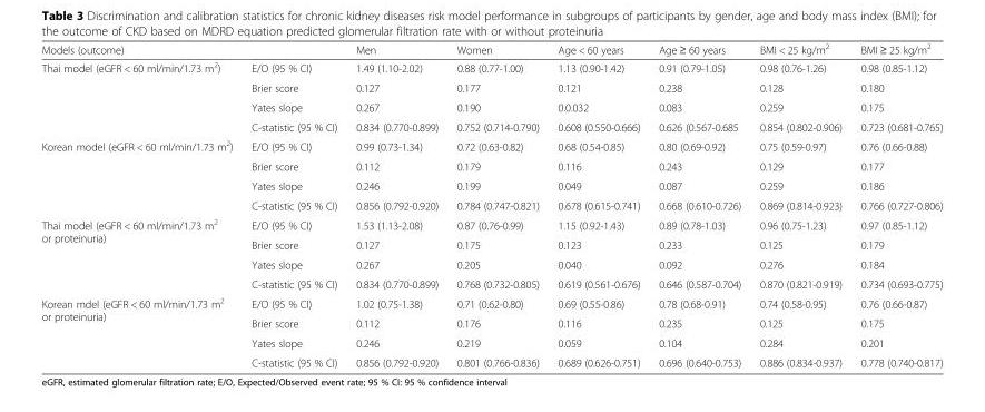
<table><thead><tr><td>Models (outcome)</td><td></td><td>Men</td><td>Women</td><td>Age &lt; 60 years</td><td>Age ≥ 60 years</td><td>BMI &lt; 25 kg/m<sup>2</sup></td><td>BMI ≥ 25 kg/m<sup>2</sup></td></tr></thead><tbody><tr><td rowspan="4">Thai model (eGFR &lt; 60 ml/min/1.73 m<sup>2</sup>)</td><td>E/O (95 % CI)</td><td>1.49 (1.10-2.02)</td><td>0.88 (0.77-1.00)</td><td>1.13 (0.90-1.42)</td><td>0.91 (0.79-1.05)</td><td>0.98 (0.76-1.26)</td><td>0.98 (0.85-1.12)</td></tr><tr><td>Brier score</td><td>0.127</td><td>0.177</td><td>0.121</td><td>0.238</td><td>0.128</td><td>0.180</td></tr><tr><td>Yates slope</td><td>0.267</td><td>0.190</td><td>0.0.032</td><td>0.083</td><td>0.259</td><td>0.175</td></tr><tr><td>C-statistic (95 % CI)</td><td>0.834 (0.770-0.899)</td><td>0.752 (0.714-0.790)</td><td>0.608 (0.550-0.666)</td><td>0.626 (0.567-0.685</td><td>0.854 (0.802-0.906)</td><td>0.723 (0.681-0.765)</td></tr><tr><td rowspan="4">Korean model (eGFR &lt; 60 ml/min/1.73 m<sup>2</sup>)</td><td>E/O (95 % CI)</td><td>0.99 (0.73-1.34)</td><td>0.72 (0.63-0.82)</td><td>0.68 (0.54-0.85)</td><td>0.80 (0.69-0.92)</td><td>0.75 (0.59-0.97)</td><td>0.76 (0.66-0.88)</td></tr><tr><td>Brier score</td><td>0.112</td><td>0.179</td><td>0.116</td><td>0.243</td><td>0.129</td><td>0.177</td></tr><tr><td>Yates slope</td><td>0.246</td><td>0.199</td><td>0.049</td><td>0.087</td><td>0.259</td><td>0.186</td></tr><tr><td>C-statistic (95 % CI)</td><td>0.856 (0.792-0.920)</td><td>0.784 (0.747-0.821)</td><td>0.678 (0.615-0.741)</td><td>0.668 (0.610-0.726)</td><td>0.869 (0.814-0.923)</td><td>0.766 (0.727-0.806)</td></tr><tr><td rowspan="4">Thai model (eGFR &lt; 60 ml/min/1.73 m<sup>2</sup> or proteinuria)</td><td>E/O (95 % CI)</td><td>1.53 (1.13-2.08)</td><td>0.87 (0.76-0.99)</td><td>1.15 (0.92-1.43)</td><td>0.89 (0.78-1.03)</td><td>0.96 (0.75-1.23)</td><td>0.97 (0.85-1.12)</td></tr><tr><td>Brier score</td><td>0.127</td><td>0.175</td><td>0.123</td><td>0.233</td><td>0.125</td><td>0.179</td></tr><tr><td>Yates slope</td><td>0.267</td><td>0.205</td><td>0.040</td><td>0.092</td><td>0.276</td><td>0.184</td></tr><tr><td>C-statistic (95 % CI)</td><td>0.834 (0.770-0.899)</td><td>0.768 (0.732-0.805)</td><td>0.619 (0.561-0.676)</td><td>0.646 (0.587-0.704)</td><td>0.870 (0.821-0.919)</td><td>0.734 (0.693-0.775)</td></tr><tr><td rowspan="4">Korean mdel (eGFR &lt; 60 ml/min/1.73 m<sup>2</sup> or proteinuria)</td><td>E/O (95 % CI)</td><td>1.02 (0.75-1.38)</td><td>0.71 (0.62-0.80)</td><td>0.69 (0.55-0.86)</td><td>0.78 (0.68-0.91)</td><td>0.74 (0.58-0.95)</td><td>0.76 (0.66-0.87)</td></tr><tr><td>Brier score</td><td>0.112</td><td>0.176</td><td>0.116</td><td>0.235</td><td>0.125</td><td>0.175</td></tr><tr><td>Yates slope</td><td>0.246</td><td>0.219</td><td>0.059</td><td>0.104</td><td>0.284</td><td>0.201</td></tr><tr><td>C-statistic (95 % CI)</td><td>0.856 (0.792-0.920)</td><td>0.801 (0.766-0.836)</td><td>0.689 (0.626-0.751)</td><td>0.696 (0.640-0.753)</td><td>0.886 (0.834-0.937)</td><td>0.778 (0.740-0.817)</td></tr></tbody></table>